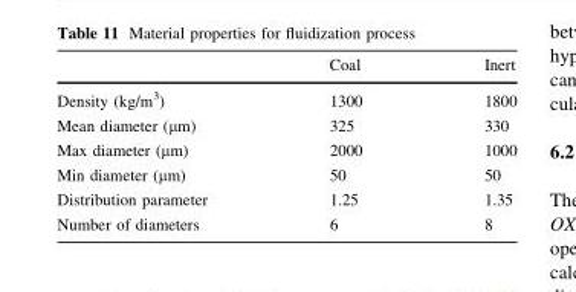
<table><thead><tr><td></td><td>Coal</td><td>Inert</td></tr></thead><tbody><tr><td>Density (kg/m<sup>3</sup>)</td><td>1300</td><td>1800</td></tr><tr><td>Mean diameter (μm)</td><td>325</td><td>330</td></tr><tr><td>Max diameter (μm)</td><td>2000</td><td>1000</td></tr><tr><td>Min diameter (μm)</td><td>50</td><td>50</td></tr><tr><td>Distribution parameter</td><td>1.25</td><td>1.35</td></tr><tr><td>Number of diameters</td><td>6</td><td>8</td></tr></tbody></table>